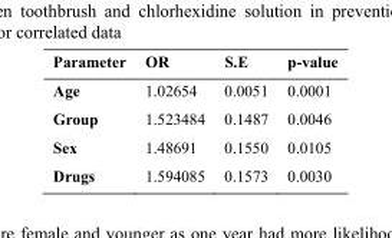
<table><thead><tr><td>Parameter</td><td>OR</td><td>S.E</td><td>p-value</td></tr></thead><tbody><tr><td>Age</td><td>1.02654</td><td>0.0051</td><td>0.0001</td></tr><tr><td>Group</td><td>1.523484</td><td>0.1487</td><td>0.0046</td></tr><tr><td>Sex</td><td>1.48691</td><td>0.1550</td><td>0.0105</td></tr><tr><td>Drugs</td><td>1.594085</td><td>0.1573</td><td>0.0030</td></tr></tbody></table>